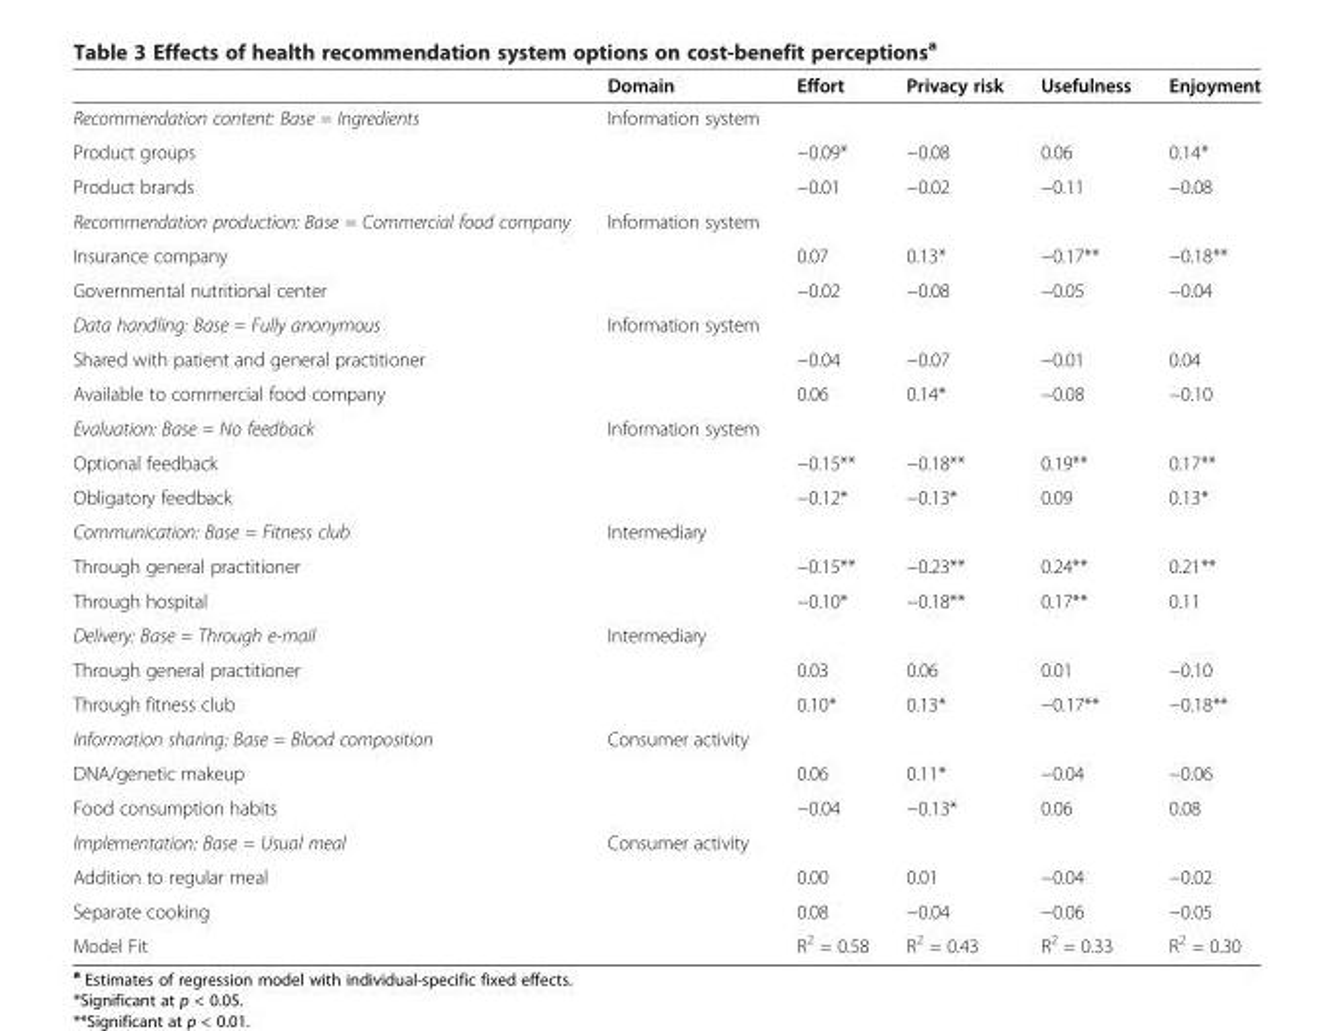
<table><thead><tr><td></td><td>Domain</td><td>Effort</td><td>Privacy risk</td><td>Usefulness</td><td>Enjoyment</td></tr></thead><tbody><tr><td>Recommendation content: Base = Ingredients</td><td>Information system</td><td></td><td></td><td></td><td></td></tr><tr><td>Product groups</td><td></td><td>−0.09*</td><td>−0.08</td><td>0.06</td><td>0.14*</td></tr><tr><td>Product brands</td><td></td><td>−0.01</td><td>−0.02</td><td>−0.11</td><td>−0.08</td></tr><tr><td>Recommendation production: Base = Commercial food company</td><td>Information system</td><td></td><td></td><td></td><td></td></tr><tr><td>Insurance company</td><td></td><td>0.07</td><td>0.13*</td><td>−0.17**</td><td>−0.18**</td></tr><tr><td>Governmental nutritional center</td><td></td><td>−0.02</td><td>−0.08</td><td>−0.05</td><td>−0.04</td></tr><tr><td>Data handling: Base = Fully anonymous</td><td>Information system</td><td></td><td></td><td></td><td></td></tr><tr><td>Shared with patient and general practitioner</td><td></td><td>−0.04</td><td>−0.07</td><td>−0.01</td><td>0.04</td></tr><tr><td>Available to commercial food company</td><td></td><td>0.06</td><td>0.14*</td><td>−0.08</td><td>−0.10</td></tr><tr><td>Evaluation: Base = No feedback</td><td>Information system</td><td></td><td></td><td></td><td></td></tr><tr><td>Optional feedback</td><td></td><td>−0.15**</td><td>−0.18**</td><td>0.19**</td><td>0.17**</td></tr><tr><td>Obligatory feedback</td><td></td><td>−0.12*</td><td>−0.13*</td><td>0.09</td><td>0.13*</td></tr><tr><td>Communication: Base = Fitness club</td><td>Intermediary</td><td></td><td></td><td></td><td></td></tr><tr><td>Through general practitioner</td><td></td><td>−0.15**</td><td>−0.23**</td><td>0.24**</td><td>0.21**</td></tr><tr><td>Through hospital</td><td></td><td>−0.10*</td><td>−0.18**</td><td>0.17**</td><td>0.11</td></tr><tr><td>Delivery: Base = Through e-mail</td><td>Intermediary</td><td></td><td></td><td></td><td></td></tr><tr><td>Through general practitioner</td><td></td><td>0.03</td><td>0.06</td><td>0.01</td><td>−0.10</td></tr><tr><td>Through fitness club</td><td></td><td>0.10*</td><td>0.13*</td><td>−0.17**</td><td>−0.18**</td></tr><tr><td>Information sharing: Base = Blood composition</td><td>Consumer activity</td><td></td><td></td><td></td><td></td></tr><tr><td>DNA/genetic makeup</td><td></td><td>0.06</td><td>0.11*</td><td>−0.04</td><td>−0.06</td></tr><tr><td>Food consumption habits</td><td></td><td>−0.04</td><td>−0.13*</td><td>0.06</td><td>0.08</td></tr><tr><td>Implementation: Base = Usual meal</td><td>Consumer activity</td><td></td><td></td><td></td><td></td></tr><tr><td>Addition to regular meal</td><td></td><td>0.00</td><td>0.01</td><td>−0.04</td><td>−0.02</td></tr><tr><td>Separate cooking</td><td></td><td>0.08</td><td>−0.04</td><td>−0.06</td><td>−0.05</td></tr><tr><td>Model Fit</td><td></td><td>R<sup>2</sup> = 0.58</td><td>R<sup>2</sup> = 0.43</td><td>R<sup>2</sup> = 0.33</td><td>R<sup>2</sup> = 0.30</td></tr></tbody></table>